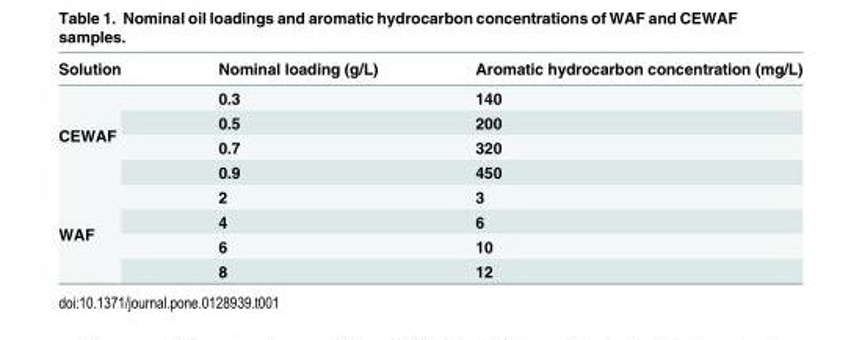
<table><thead><tr><td>Solution</td><td>Nominal loading (g/L)</td><td>Aromatic hydrocarbon concentration (mg/L)</td></tr></thead><tbody><tr><td rowspan="4">CEWAF</td><td>0.3</td><td>140</td></tr><tr><td>0.5</td><td>200</td></tr><tr><td>0.7</td><td>320</td></tr><tr><td>0.9</td><td>450</td></tr><tr><td rowspan="4">WAF</td><td>2</td><td>3</td></tr><tr><td>4</td><td>6</td></tr><tr><td>6</td><td>10</td></tr><tr><td>8</td><td>12</td></tr></tbody></table>